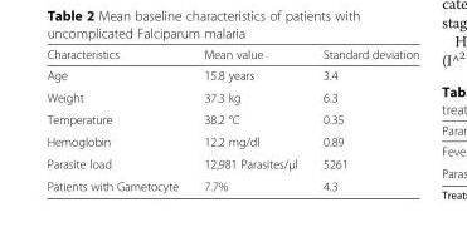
<table><thead><tr><td>Characteristics</td><td>Mean value</td><td>Standard deviation</td></tr></thead><tbody><tr><td>Age</td><td>15.8 years</td><td>3.4</td></tr><tr><td>Weight</td><td>37.3 kg</td><td>6.3</td></tr><tr><td>Temperature</td><td>38.2 °C</td><td>0.35</td></tr><tr><td>Hemoglobin</td><td>12.2 mg/dl</td><td>0.89</td></tr><tr><td>Parasite load</td><td>12,981 Parasites/μl</td><td>5261</td></tr><tr><td>Patients with Gametocyte</td><td>7.7%</td><td>4.3</td></tr></tbody></table>